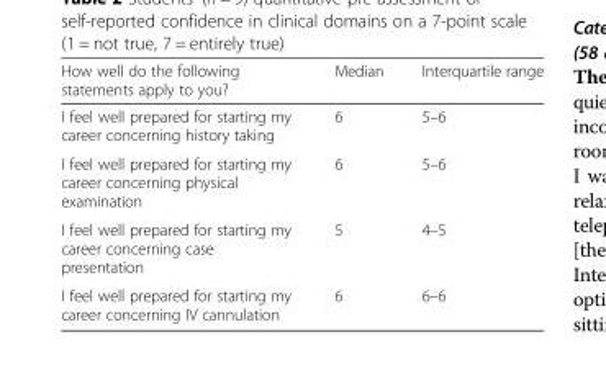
<table><thead><tr><td>How well do the following statements apply to you?</td><td>Median</td><td>Interquartile range</td></tr></thead><tbody><tr><td>I feel well prepared for starting my career concerning history taking</td><td>6</td><td>5–6</td></tr><tr><td>I feel well prepared for starting my career concerning physical examination</td><td>6</td><td>5–6</td></tr><tr><td>I feel well prepared for starting my career concerning case presentation</td><td>5</td><td>4–5</td></tr><tr><td>I feel well prepared for starting my career concerning IV cannulation</td><td>6</td><td>6–6</td></tr></tbody></table>